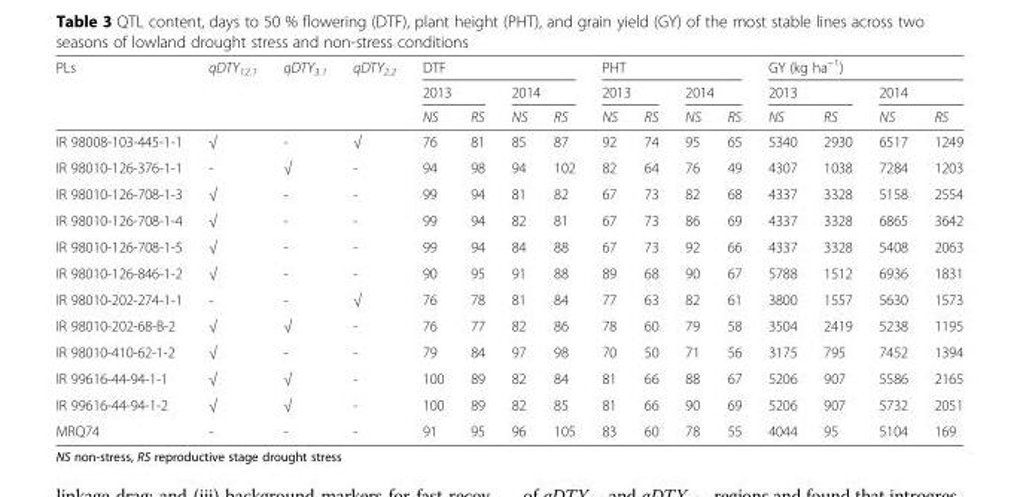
<table><thead><tr><td rowspan="3">PLs</td><td rowspan="3">qDTY<sub>12.1</sub></td><td rowspan="3">qDTY<sub>3.1</sub></td><td rowspan="3">qDTY<sub>2.2</sub></td><td colspan="4">DTF</td><td colspan="4">PHT</td><td colspan="4">GY (kg ha<sup>−1</sup>)</td></tr><tr><td colspan="2">2013</td><td colspan="2">2014</td><td colspan="2">2013</td><td colspan="2">2014</td><td colspan="2">2013</td><td colspan="2">2014</td></tr><tr><td>NS</td><td>RS</td><td>NS</td><td>RS</td><td>NS</td><td>RS</td><td>NS</td><td>RS</td><td>NS</td><td>RS</td><td>NS</td><td>RS</td></tr></thead><tbody><tr><td>IR 98008-103-445-1-1</td><td>√</td><td>-</td><td>√</td><td>76</td><td>81</td><td>85</td><td>87</td><td>92</td><td>74</td><td>95</td><td>65</td><td>5340</td><td>2930</td><td>6517</td><td>1249</td></tr><tr><td>IR 98010-126-376-1-1</td><td>-</td><td>√</td><td>-</td><td>94</td><td>98</td><td>94</td><td>102</td><td>82</td><td>64</td><td>76</td><td>49</td><td>4307</td><td>1038</td><td>7284</td><td>1203</td></tr><tr><td>IR 98010-126-708-1-3</td><td>√</td><td>-</td><td>-</td><td>99</td><td>94</td><td>81</td><td>82</td><td>67</td><td>73</td><td>82</td><td>68</td><td>4337</td><td>3328</td><td>5158</td><td>2554</td></tr><tr><td>IR 98010-126-708-1-4</td><td>√</td><td>-</td><td>-</td><td>99</td><td>94</td><td>82</td><td>81</td><td>67</td><td>73</td><td>86</td><td>69</td><td>4337</td><td>3328</td><td>6865</td><td>3642</td></tr><tr><td>IR 98010-126-708-1-5</td><td>√</td><td>-</td><td>-</td><td>99</td><td>94</td><td>84</td><td>88</td><td>67</td><td>73</td><td>92</td><td>66</td><td>4337</td><td>3328</td><td>5408</td><td>2063</td></tr><tr><td>IR 98010-126-846-1-2</td><td>√</td><td>-</td><td>-</td><td>90</td><td>95</td><td>91</td><td>88</td><td>89</td><td>68</td><td>90</td><td>67</td><td>5788</td><td>1512</td><td>6936</td><td>1831</td></tr><tr><td>IR 98010-202-274-1-1</td><td>-</td><td>-</td><td>√</td><td>76</td><td>78</td><td>81</td><td>84</td><td>77</td><td>63</td><td>82</td><td>61</td><td>3800</td><td>1557</td><td>5630</td><td>1573</td></tr><tr><td>IR 98010-202-68-B-2</td><td>√</td><td>√</td><td>-</td><td>76</td><td>77</td><td>82</td><td>86</td><td>78</td><td>60</td><td>79</td><td>58</td><td>3504</td><td>2419</td><td>5238</td><td>1195</td></tr><tr><td>IR 98010-410-62-1-2</td><td>√</td><td>-</td><td>-</td><td>79</td><td>84</td><td>97</td><td>98</td><td>70</td><td>50</td><td>71</td><td>56</td><td>3175</td><td>795</td><td>7452</td><td>1394</td></tr><tr><td>IR 99616-44-94-1-1</td><td>√</td><td>√</td><td>-</td><td>100</td><td>89</td><td>82</td><td>84</td><td>81</td><td>66</td><td>88</td><td>67</td><td>5206</td><td>907</td><td>5586</td><td>2165</td></tr><tr><td>IR 99616-44-94-1-2</td><td>√</td><td>√</td><td>-</td><td>100</td><td>89</td><td>82</td><td>85</td><td>81</td><td>66</td><td>90</td><td>69</td><td>5206</td><td>907</td><td>5732</td><td>2051</td></tr><tr><td>MRQ74</td><td>-</td><td>-</td><td>-</td><td>91</td><td>95</td><td>96</td><td>105</td><td>83</td><td>60</td><td>78</td><td>55</td><td>4044</td><td>95</td><td>5104</td><td>169</td></tr></tbody></table>